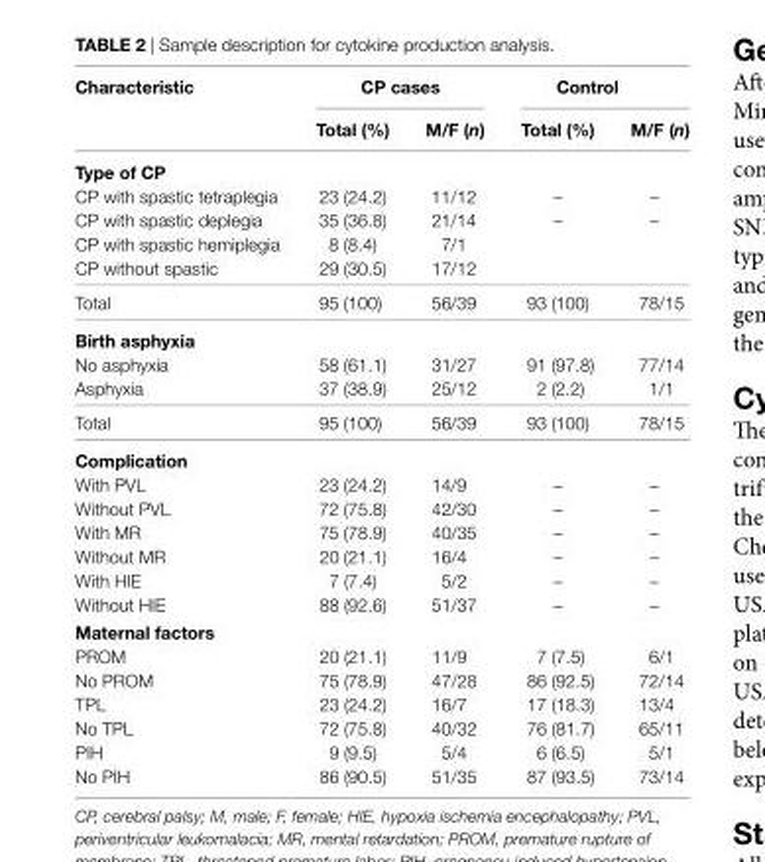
<table><thead><tr><td rowspan="2">characteristic</td><td colspan="2">cP cases</td><td colspan="2">control</td></tr><tr><td>Total (%)</td><td>M/F (n)</td><td>Total (%)</td><td>M/F (n)</td></tr></thead><tbody><tr><td colspan="5">Type of cP</td></tr><tr><td>CP with spastic tetraplegia</td><td>23 (24.2)</td><td>11/12</td><td>–</td><td>–</td></tr><tr><td>CP with spastic deplegia</td><td>35 (36.8)</td><td>21/14</td><td>–</td><td>–</td></tr><tr><td>CP with spastic hemiplegia</td><td>8 (8.4)</td><td>7/1</td><td></td><td></td></tr><tr><td>CP without spastic</td><td>29 (30.5)</td><td>17/12</td><td></td><td></td></tr><tr><td>Total</td><td>95 (100)</td><td>56/39</td><td>93 (100)</td><td>78/15</td></tr><tr><td colspan="5">Birth asphyxia</td></tr><tr><td>No asphyxia</td><td>58 (61.1)</td><td>31/27</td><td>91 (97.8)</td><td>77/14</td></tr><tr><td>Asphyxia</td><td>37 (38.9)</td><td>25/12</td><td>2 (2.2)</td><td>1/1</td></tr><tr><td>Total</td><td>95 (100)</td><td>56/39</td><td>93 (100)</td><td>78/15</td></tr><tr><td colspan="5">complication</td></tr><tr><td>With PVL</td><td>23 (24.2)</td><td>14/9</td><td>–</td><td>–</td></tr><tr><td>Without PVL</td><td>72 (75.8)</td><td>42/30</td><td>–</td><td>–</td></tr><tr><td>With MR</td><td>75 (78.9)</td><td>40/35</td><td>–</td><td>–</td></tr><tr><td>Without MR</td><td>20 (21.1)</td><td>16/4</td><td>–</td><td>–</td></tr><tr><td>With HIE</td><td>7 (7.4)</td><td>5/2</td><td>–</td><td>–</td></tr><tr><td>Without HIE</td><td>88 (92.6)</td><td>51/37</td><td>–</td><td>–</td></tr><tr><td colspan="5">Maternal factors</td></tr><tr><td>PROM</td><td>20 (21.1)</td><td>11/9</td><td>7 (7.5)</td><td>6/1</td></tr><tr><td>No PROM</td><td>75 (78.9)</td><td>47/28</td><td>86 (92.5)</td><td>72/14</td></tr><tr><td>TPL</td><td>23 (24.2)</td><td>16/7</td><td>17 (18.3)</td><td>13/4</td></tr><tr><td>No TPL</td><td>72 (75.8)</td><td>40/32</td><td>76 (81.7)</td><td>65/11</td></tr><tr><td>PIH</td><td>9 (9.5)</td><td>5/4</td><td>6 (6.5)</td><td>5/1</td></tr><tr><td>No PIH</td><td>86 (90.5)</td><td>51/35</td><td>87 (93.5)</td><td>73/14</td></tr></tbody></table>